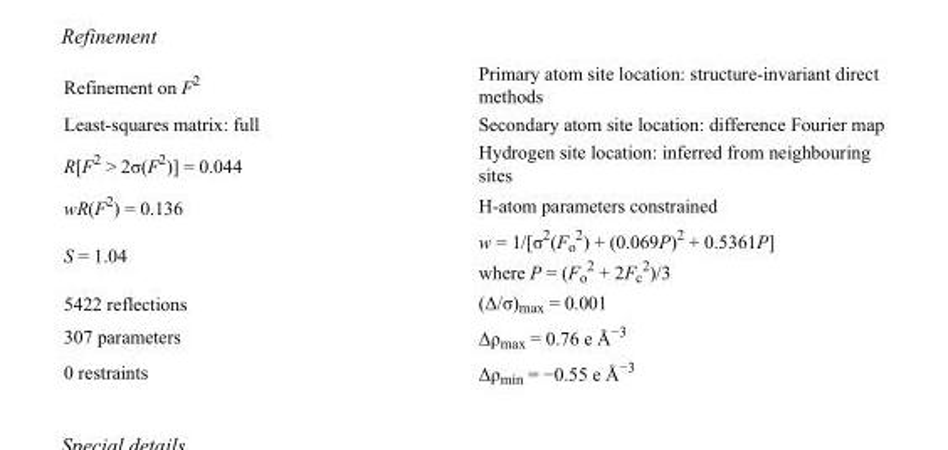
<table><tbody><tr><td>Refinement on F<sup>2</sup></td><td>Primary atom site location: structure-invariant direct methods</td></tr><tr><td>Least-squares matrix: full</td><td>Secondary atom site location: difference Fourier map</td></tr><tr><td>R[F<sup>2</sup> &gt; 2σ(F<sup>2</sup>)] = 0.044</td><td>Hydrogen site location: inferred from neighbouring sites</td></tr><tr><td>wR(F<sup>2</sup>) = 0.136</td><td>H-atom parameters constrained</td></tr><tr><td>S = 1.04</td><td>w = 1/[σ<sup>2</sup>(F<sub>o</sub> <sup>2</sup>) + (0.069P)<sup>2</sup> + 0.5361P] where P = (F<sub>o</sub> <sup>2</sup> + 2F<sub>c</sub> <sup>2</sup>)/3</td></tr><tr><td>5422 reflections</td><td>(Δ/σ)<sub>max</sub> = 0.001</td></tr><tr><td>307 parameters</td><td>Δρ<sub>max</sub> = 0.76 e Å<sup>−3</sup></td></tr><tr><td>0 restraints</td><td>Δρ<sub>min</sub> = −0.55 e Å<sup>−3</sup></td></tr></tbody></table>